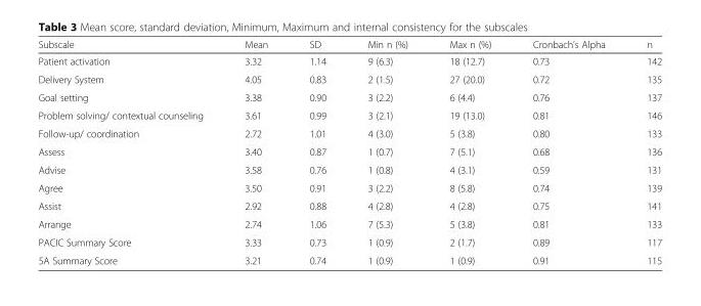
<table><thead><tr><td>Subscale</td><td>Mean</td><td>SD</td><td>Min n (%)</td><td>Max n (%)</td><td>Cronbach’s Alpha</td><td>n</td></tr></thead><tbody><tr><td>Patient activation</td><td>3.32</td><td>1.14</td><td>9 (6.3)</td><td>18 (12.7)</td><td>0.73</td><td>142</td></tr><tr><td>Delivery System</td><td>4.05</td><td>0.83</td><td>2 (1.5)</td><td>27 (20.0)</td><td>0.72</td><td>135</td></tr><tr><td>Goal setting</td><td>3.38</td><td>0.90</td><td>3 (2.2)</td><td>6 (4.4)</td><td>0.76</td><td>137</td></tr><tr><td>Problem solving/ contextual counseling</td><td>3.61</td><td>0.99</td><td>3 (2.1)</td><td>19 (13.0)</td><td>0.81</td><td>146</td></tr><tr><td>Follow-up/ coordination</td><td>2.72</td><td>1.01</td><td>4 (3.0)</td><td>5 (3.8)</td><td>0.80</td><td>133</td></tr><tr><td>Assess</td><td>3.40</td><td>0.87</td><td>1 (0.7)</td><td>7 (5.1)</td><td>0.68</td><td>136</td></tr><tr><td>Advise</td><td>3.58</td><td>0.76</td><td>1 (0.8)</td><td>4 (3.1)</td><td>0.59</td><td>131</td></tr><tr><td>Agree</td><td>3.50</td><td>0.91</td><td>3 (2.2)</td><td>8 (5.8)</td><td>0.74</td><td>139</td></tr><tr><td>Assist</td><td>2.92</td><td>0.88</td><td>4 (2.8)</td><td>4 (2.8)</td><td>0.75</td><td>141</td></tr><tr><td>Arrange</td><td>2.74</td><td>1.06</td><td>7 (5.3)</td><td>5 (3.8)</td><td>0.81</td><td>133</td></tr><tr><td>PACIC Summary Score</td><td>3.33</td><td>0.73</td><td>1 (0.9)</td><td>2 (1.7)</td><td>0.89</td><td>117</td></tr><tr><td>5A Summary Score</td><td>3.21</td><td>0.74</td><td>1 (0.9)</td><td>1 (0.9)</td><td>0.91</td><td>115</td></tr></tbody></table>